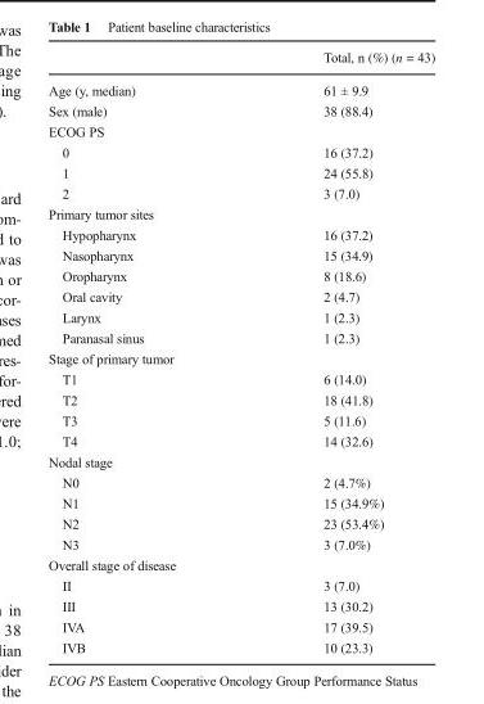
<table><thead><tr><td></td><td>Total, n (%) (n = 43)</td></tr></thead><tbody><tr><td>Age (y, median)</td><td>61 ± 9.9</td></tr><tr><td>Sex (male)</td><td>38 (88.4)</td></tr><tr><td colspan="2">ECOG PS</td></tr><tr><td>0</td><td>16 (37.2)</td></tr><tr><td>1</td><td>24 (55.8)</td></tr><tr><td>2</td><td>3 (7.0)</td></tr><tr><td colspan="2">Primary tumor sites</td></tr><tr><td>Hypopharynx</td><td>16 (37.2)</td></tr><tr><td>Nasopharynx</td><td>15 (34.9)</td></tr><tr><td>Oropharynx</td><td>8 (18.6)</td></tr><tr><td>Oral cavity</td><td>2 (4.7)</td></tr><tr><td>Larynx</td><td>1 (2.3)</td></tr><tr><td>Paranasal sinus</td><td>1 (2.3)</td></tr><tr><td colspan="2">Stage of primary tumor</td></tr><tr><td>T1</td><td>6 (14.0)</td></tr><tr><td>T2</td><td>18 (41.8)</td></tr><tr><td>T3</td><td>5 (11.6)</td></tr><tr><td>T4</td><td>14 (32.6)</td></tr><tr><td colspan="2">Nodal stage</td></tr><tr><td>N0</td><td>2 (4.7%)</td></tr><tr><td>N1</td><td>15 (34.9%)</td></tr><tr><td>N2</td><td>23 (53.4%)</td></tr><tr><td>N3</td><td>3 (7.0%)</td></tr><tr><td colspan="2">Overall stage of disease</td></tr><tr><td>II</td><td>3 (7.0)</td></tr><tr><td>III</td><td>13 (30.2)</td></tr><tr><td>IVA</td><td>17 (39.5)</td></tr><tr><td>IVB</td><td>10 (23.3)</td></tr></tbody></table>